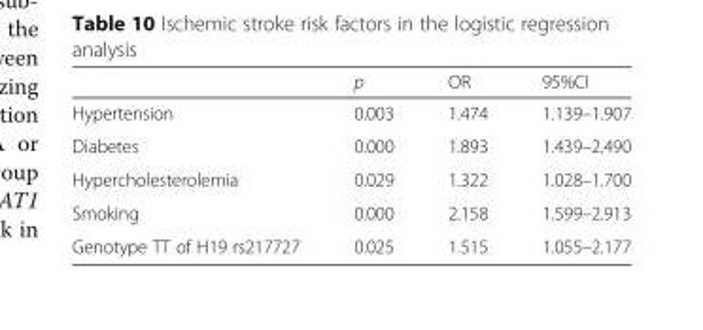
<table><thead><tr><td></td><td>p</td><td>OR</td><td>95%CI</td></tr></thead><tbody><tr><td>Hypertension</td><td>0.003</td><td>1.474</td><td>1.139–1.907</td></tr><tr><td>Diabetes</td><td>0.000</td><td>1.893</td><td>1.439–2.490</td></tr><tr><td>Hypercholesterolemia</td><td>0.029</td><td>1.322</td><td>1.028–1.700</td></tr><tr><td>Smoking</td><td>0.000</td><td>2.158</td><td>1.599–2.913</td></tr><tr><td>Genotype TT of H19 rs217727</td><td>0.025</td><td>1.515</td><td>1.055–2.177</td></tr></tbody></table>